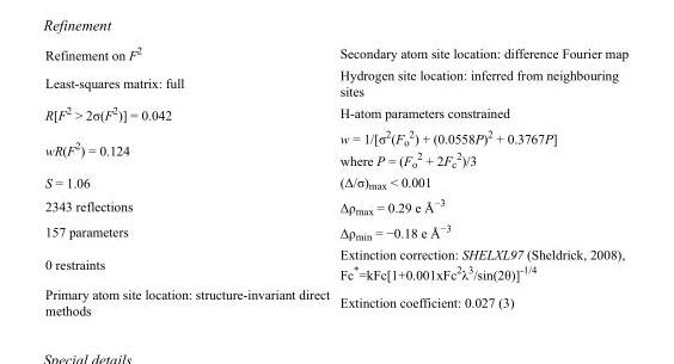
<table><tbody><tr><td>Refinement on F<sup>2</sup></td><td>Secondary atom site location: difference Fourier map</td></tr><tr><td>Least-squares matrix: full</td><td>Hydrogen site location: inferred from neighbouring sites</td></tr><tr><td>R[F<sup>2</sup> &gt; 2σ(F<sup>2</sup>)] = 0.042</td><td>H-atom parameters constrained</td></tr><tr><td>wR(F<sup>2</sup>) = 0.124</td><td>w = 1/[σ<sup>2</sup>(F<sub>o</sub> <sup>2</sup>) + (0.0558P)<sup>2</sup> + 0.3767P] where P = (F<sub>o</sub> <sup>2</sup> + 2F<sub>c</sub> <sup>2</sup>)/3</td></tr><tr><td>S = 1.06</td><td>(Δ/σ)<sub>max</sub> &lt; 0.001</td></tr><tr><td>2343 reflections</td><td>Δρ<sub>max</sub> = 0.29 e Å<sup>−3</sup></td></tr><tr><td>157 parameters</td><td>Δρ<sub>min</sub> = −0.18 e Å<sup>−3</sup></td></tr><tr><td>0 restraints</td><td>Extinction correction: SHELXL97 (Sheldrick, 2008), Fc*=kFc[1+0.001xFc<sup>2</sup>λ<sup>3</sup>/sin(2θ)]<sup>-1/4</sup></td></tr><tr><td>Primary atom site location: structure-invariant direct methods</td><td>Extinction coefficient: 0.027 (3)</td></tr></tbody></table>